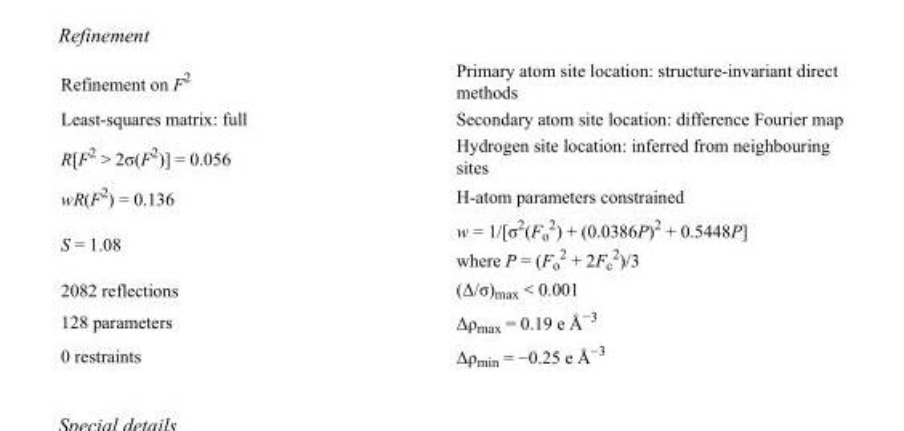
<table><tbody><tr><td>Refinement on F<sup>2</sup></td><td>Primary atom site location: structure-invariant direct methods</td></tr><tr><td>Least-squares matrix: full</td><td>Secondary atom site location: difference Fourier map</td></tr><tr><td>R[F<sup>2</sup> &gt; 2σ(F<sup>2</sup>)] = 0.056</td><td>Hydrogen site location: inferred from neighbouring sites</td></tr><tr><td>wR(F<sup>2</sup>) = 0.136</td><td>H-atom parameters constrained</td></tr><tr><td>S = 1.08</td><td>w = 1/[σ<sup>2</sup>(F<sub>o</sub> <sup>2</sup>) + (0.0386P)<sup>2</sup> + 0.5448P] where P = (F<sub>o</sub> <sup>2</sup> + 2F<sub>c</sub> <sup>2</sup>)/3</td></tr><tr><td>2082 reflections</td><td>(Δ/σ)<sub>max</sub> &lt; 0.001</td></tr><tr><td>128 parameters</td><td>Δρ<sub>max</sub> = 0.19 e Å<sup>−3</sup></td></tr><tr><td>0 restraints</td><td>Δρ<sub>min</sub> = −0.25 e Å<sup>−3</sup></td></tr></tbody></table>